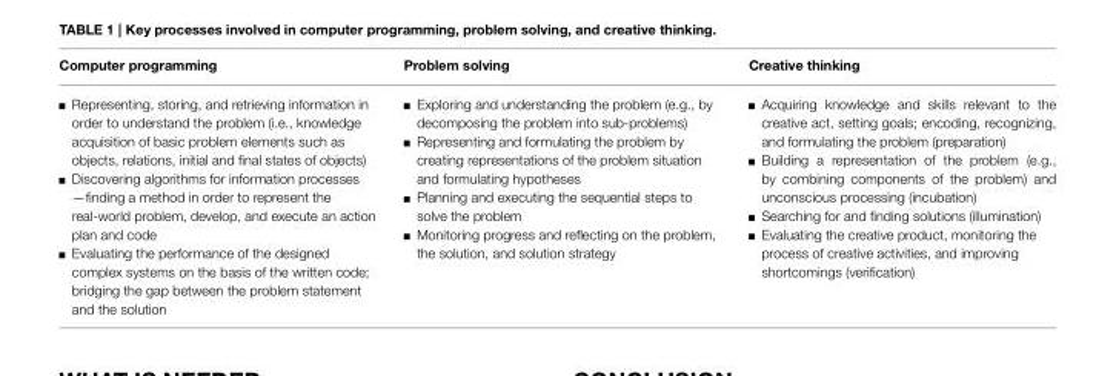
<table><thead><tr><td>Computer programming</td><td>Problem solving</td><td>Creative thinking</td></tr></thead><tbody><tr><td>Representing, storing, and retrieving information in order to understand the problem (i.e., knowledge acquisition of basic problem elements such as objects, relations, initial and final states of objects) Discovering algorithms for information processes —finding a method in order to represent the real-world problem, develop, and execute an action plan and code Evaluating the performance of the designed complex systems on the basis of the written code; bridging the gap between the problem statement and the solution</td><td>Exploring and understanding the problem (e.g., by decomposing the problem into sub-problems) Representing and formulating the problem by creating representations of the problem situation and formulating hypotheses Planning and executing the sequential steps to solve the problem Monitoring progress and reflecting on the problem, the solution, and solution strategy</td><td>Acquiring knowledge and skills relevant to the creative act, setting goals; encoding, recognizing, and formulating the problem (preparation) Building a representation of the problem (e.g., by combining components of the problem) and unconscious processing (incubation) Searching for and finding solutions (illumination) Evaluating the creative product, monitoring the process of creative activities, and improving shortcomings (verification)</td></tr></tbody></table>